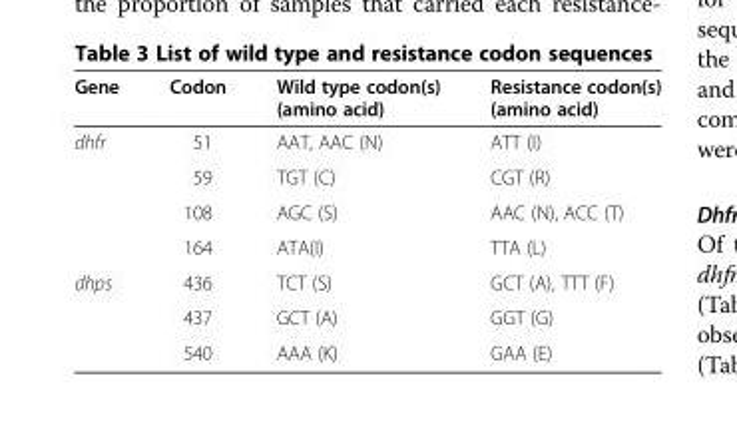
<table><thead><tr><td>Gene</td><td>Codon</td><td>Wild type codon(s) (amino acid)</td><td>Resistance codon(s) (amino acid)</td></tr></thead><tbody><tr><td rowspan="4">dhfr</td><td>51</td><td>AAT, AAC (N)</td><td>ATT (I)</td></tr><tr><td>59</td><td>TGT (C)</td><td>CGT (R)</td></tr><tr><td>108</td><td>AGC (S)</td><td>AAC (N), ACC (T)</td></tr><tr><td>164</td><td>ATA(I)</td><td>TTA (L)</td></tr><tr><td rowspan="3">dhps</td><td>436</td><td>TCT (S)</td><td>GCT (A), TTT (F)</td></tr><tr><td>437</td><td>GCT (A)</td><td>GGT (G)</td></tr><tr><td>540</td><td>AAA (K)</td><td>GAA (E)</td></tr></tbody></table>